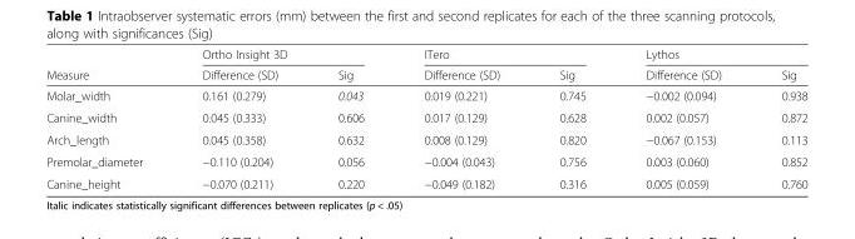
<table><thead><tr><td rowspan="2">Measure</td><td colspan="2">Ortho Insight 3D</td><td colspan="2">ITero</td><td colspan="2">Lythos</td></tr><tr><td>Difference (SD)</td><td>Sig</td><td>Difference (SD)</td><td>Sig</td><td>Difference (SD)</td><td>Sig</td></tr></thead><tbody><tr><td>Molar_width</td><td>0.161 (0.279)</td><td>0.043</td><td>0.019 (0.221)</td><td>0.745</td><td>−0.002 (0.094)</td><td>0.938</td></tr><tr><td>Canine_width</td><td>0.045 (0.333)</td><td>0.606</td><td>0.017 (0.129)</td><td>0.628</td><td>0.002 (0.057)</td><td>0.872</td></tr><tr><td>Arch_length</td><td>0.045 (0.358)</td><td>0.632</td><td>0.008 (0.129)</td><td>0.820</td><td>−0.067 (0.153)</td><td>0.113</td></tr><tr><td>Premolar_diameter</td><td>−0.110 (0.204)</td><td>0.056</td><td>−0.004 (0.043)</td><td>0.756</td><td>0.003 (0.060)</td><td>0.852</td></tr><tr><td>Canine_height</td><td>−0.070 (0.211)</td><td>0.220</td><td>−0.049 (0.182)</td><td>0.316</td><td>0.005 (0.059)</td><td>0.760</td></tr></tbody></table>